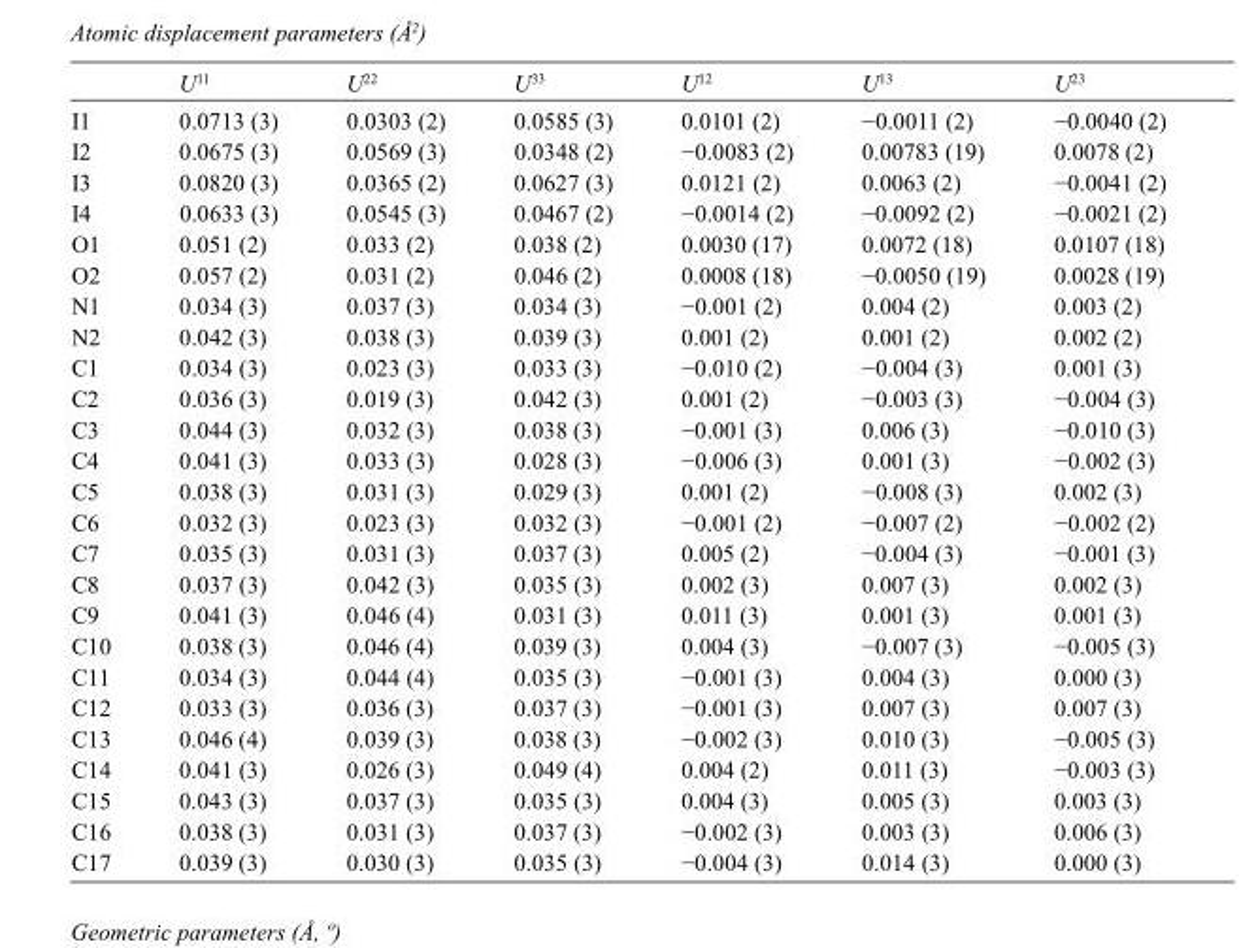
<table><thead><tr><td></td><td>U<sup>11</sup></td><td>U<sup>22</sup></td><td>U<sup>33</sup></td><td>U<sup>12</sup></td><td>U<sup>13</sup></td><td>U<sup>23</sup></td></tr></thead><tbody><tr><td>I1</td><td>0.0713 (3)</td><td>0.0303 (2)</td><td>0.0585 (3)</td><td>0.0101 (2)</td><td>−0.0011 (2)</td><td>−0.0040 (2)</td></tr><tr><td>I2</td><td>0.0675 (3)</td><td>0.0569 (3)</td><td>0.0348 (2)</td><td>−0.0083 (2)</td><td>0.00783 (19)</td><td>0.0078 (2)</td></tr><tr><td>I3</td><td>0.0820 (3)</td><td>0.0365 (2)</td><td>0.0627 (3)</td><td>0.0121 (2)</td><td>0.0063 (2)</td><td>−0.0041 (2)</td></tr><tr><td>I4</td><td>0.0633 (3)</td><td>0.0545 (3)</td><td>0.0467 (2)</td><td>−0.0014 (2)</td><td>−0.0092 (2)</td><td>−0.0021 (2)</td></tr><tr><td>O1</td><td>0.051 (2)</td><td>0.033 (2)</td><td>0.038 (2)</td><td>0.0030 (17)</td><td>0.0072 (18)</td><td>0.0107 (18)</td></tr><tr><td>O2</td><td>0.057 (2)</td><td>0.031 (2)</td><td>0.046 (2)</td><td>0.0008 (18)</td><td>−0.0050 (19)</td><td>0.0028 (19)</td></tr><tr><td>N1</td><td>0.034 (3)</td><td>0.037 (3)</td><td>0.034 (3)</td><td>−0.001 (2)</td><td>0.004 (2)</td><td>0.003 (2)</td></tr><tr><td>N2</td><td>0.042 (3)</td><td>0.038 (3)</td><td>0.039 (3)</td><td>0.001 (2)</td><td>0.001 (2)</td><td>0.002 (2)</td></tr><tr><td>C1</td><td>0.034 (3)</td><td>0.023 (3)</td><td>0.033 (3)</td><td>−0.010 (2)</td><td>−0.004 (3)</td><td>0.001 (3)</td></tr><tr><td>C2</td><td>0.036 (3)</td><td>0.019 (3)</td><td>0.042 (3)</td><td>0.001 (2)</td><td>−0.003 (3)</td><td>−0.004 (3)</td></tr><tr><td>C3</td><td>0.044 (3)</td><td>0.032 (3)</td><td>0.038 (3)</td><td>−0.001 (3)</td><td>0.006 (3)</td><td>−0.010 (3)</td></tr><tr><td>C4</td><td>0.041 (3)</td><td>0.033 (3)</td><td>0.028 (3)</td><td>−0.006 (3)</td><td>0.001 (3)</td><td>−0.002 (3)</td></tr><tr><td>C5</td><td>0.038 (3)</td><td>0.031 (3)</td><td>0.029 (3)</td><td>0.001 (2)</td><td>−0.008 (3)</td><td>0.002 (3)</td></tr><tr><td>C6</td><td>0.032 (3)</td><td>0.023 (3)</td><td>0.032 (3)</td><td>−0.001 (2)</td><td>−0.007 (2)</td><td>−0.002 (2)</td></tr><tr><td>C7</td><td>0.035 (3)</td><td>0.031 (3)</td><td>0.037 (3)</td><td>0.005 (2)</td><td>−0.004 (3)</td><td>−0.001 (3)</td></tr><tr><td>C8</td><td>0.037 (3)</td><td>0.042 (3)</td><td>0.035 (3)</td><td>0.002 (3)</td><td>0.007 (3)</td><td>0.002 (3)</td></tr><tr><td>C9</td><td>0.041 (3)</td><td>0.046 (4)</td><td>0.031 (3)</td><td>0.011 (3)</td><td>0.001 (3)</td><td>0.001 (3)</td></tr><tr><td>C10</td><td>0.038 (3)</td><td>0.046 (4)</td><td>0.039 (3)</td><td>0.004 (3)</td><td>−0.007 (3)</td><td>−0.005 (3)</td></tr><tr><td>C11</td><td>0.034 (3)</td><td>0.044 (4)</td><td>0.035 (3)</td><td>−0.001 (3)</td><td>0.004 (3)</td><td>0.000 (3)</td></tr><tr><td>C12</td><td>0.033 (3)</td><td>0.036 (3)</td><td>0.037 (3)</td><td>−0.001 (3)</td><td>0.007 (3)</td><td>0.007 (3)</td></tr><tr><td>C13</td><td>0.046 (4)</td><td>0.039 (3)</td><td>0.038 (3)</td><td>−0.002 (3)</td><td>0.010 (3)</td><td>−0.005 (3)</td></tr><tr><td>C14</td><td>0.041 (3)</td><td>0.026 (3)</td><td>0.049 (4)</td><td>0.004 (2)</td><td>0.011 (3)</td><td>−0.003 (3)</td></tr><tr><td>C15</td><td>0.043 (3)</td><td>0.037 (3)</td><td>0.035 (3)</td><td>0.004 (3)</td><td>0.005 (3)</td><td>0.003 (3)</td></tr><tr><td>C16</td><td>0.038 (3)</td><td>0.031 (3)</td><td>0.037 (3)</td><td>−0.002 (3)</td><td>0.003 (3)</td><td>0.006 (3)</td></tr><tr><td>C17</td><td>0.039 (3)</td><td>0.030 (3)</td><td>0.035 (3)</td><td>−0.004 (3)</td><td>0.014 (3)</td><td>0.000 (3)</td></tr></tbody></table>